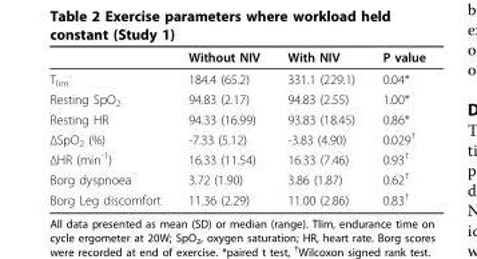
<table><thead><tr><td></td><td>Without NIV</td><td>With NIV</td><td>P value</td></tr></thead><tbody><tr><td>T<sub>lim</sub></td><td>184.4 (65.2)</td><td>331.1 (229.1)</td><td>0.04*</td></tr><tr><td>Resting SpO<sub>2</sub></td><td>94.83 (2.17)</td><td>94.83 (2.55)</td><td>1.00*</td></tr><tr><td>Resting HR</td><td>94.33 (16.99)</td><td>93.83 (18.45)</td><td>0.86*</td></tr><tr><td>ΔSpO<sub>2</sub> (%)</td><td>-7.33 (5.12)</td><td>-3.83 (4.90)</td><td>0.029<sup>†</sup></td></tr><tr><td>ΔHR (min<sup>-1</sup>)</td><td>16.33 (11.54)</td><td>16.33 (7.46)</td><td>0.93<sup>†</sup></td></tr><tr><td>Borg dyspnoea</td><td>3.72 (1.90)</td><td>3.86 (1.87)</td><td>0.62<sup>†</sup></td></tr><tr><td>Borg Leg discomfort</td><td>11.36 (2.29)</td><td>11.00 (2.86)</td><td>0.83<sup>†</sup></td></tr></tbody></table>